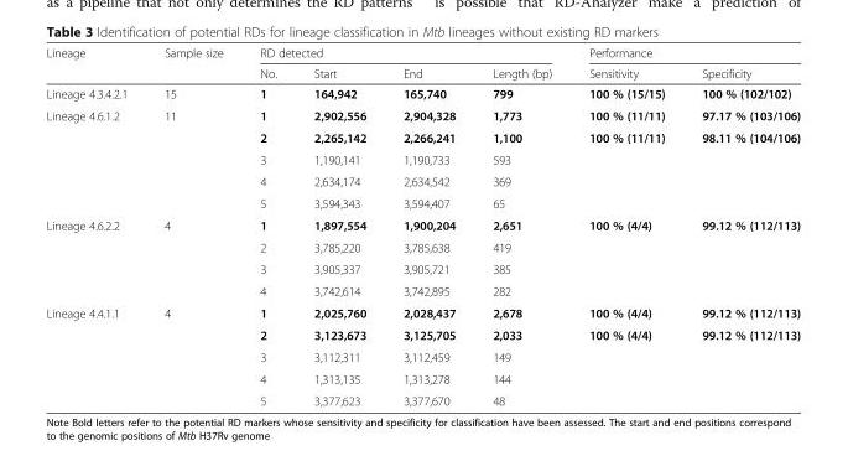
<table><thead><tr><td rowspan="2">Lineage</td><td rowspan="2">Sample size</td><td colspan="4">RD detected</td><td colspan="2">Performance</td></tr><tr><td>No.</td><td>Start</td><td>End</td><td>Length (bp)</td><td>Sensitivity</td><td>Specificity</td></tr></thead><tbody><tr><td>Lineage 4.3.4.2.1</td><td>15</td><td>1</td><td>164,942</td><td>165,740</td><td>799</td><td>100 % (15/15)</td><td>100 % (102/102)</td></tr><tr><td rowspan="5">Lineage 4.6.1.2</td><td rowspan="5">11</td><td>1</td><td>2,902,556</td><td>2,904,328</td><td>1,773</td><td>100 % (11/11)</td><td>97.17 % (103/106)</td></tr><tr><td>2</td><td>2,265,142</td><td>2,266,241</td><td>1,100</td><td>100 % (11/11)</td><td>98.11 % (104/106)</td></tr><tr><td>3</td><td>1,190,141</td><td>1,190,733</td><td>593</td><td></td><td></td></tr><tr><td>4</td><td>2,634,174</td><td>2,634,542</td><td>369</td><td></td><td></td></tr><tr><td>5</td><td>3,594,343</td><td>3,594,407</td><td>65</td><td></td><td></td></tr><tr><td rowspan="4">Lineage 4.6.2.2</td><td rowspan="4">4</td><td>1</td><td>1,897,554</td><td>1,900,204</td><td>2,651</td><td>100 % (4/4)</td><td>99.12 % (112/113)</td></tr><tr><td>2</td><td>3,785,220</td><td>3,785,638</td><td>419</td><td></td><td></td></tr><tr><td>3</td><td>3,905,337</td><td>3,905,721</td><td>385</td><td></td><td></td></tr><tr><td>4</td><td>3,742,614</td><td>3,742,895</td><td>282</td><td></td><td></td></tr><tr><td rowspan="5">Lineage 4.4.1.1</td><td rowspan="5">4</td><td>1</td><td>2,025,760</td><td>2,028,437</td><td>2,678</td><td>100 % (4/4)</td><td>99.12 % (112/113)</td></tr><tr><td>2</td><td>3,123,673</td><td>3,125,705</td><td>2,033</td><td>100 % (4/4)</td><td>99.12 % (112/113)</td></tr><tr><td>3</td><td>3,112,311</td><td>3,112,459</td><td>149</td><td></td><td></td></tr><tr><td>4</td><td>1,313,135</td><td>1,313,278</td><td>144</td><td></td><td></td></tr><tr><td>5</td><td>3,377,623</td><td>3,377,670</td><td>48</td><td></td><td></td></tr></tbody></table>